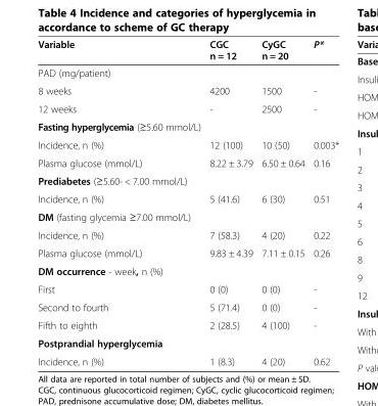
<table><thead><tr><td>Variable</td><td>CGC n = 12</td><td>CyGC n = 20</td><td>P*</td></tr></thead><tbody><tr><td colspan="4">PAD (mg/patient)</td></tr><tr><td>8 weeks</td><td>4200</td><td>1500</td><td>-</td></tr><tr><td>12 weeks</td><td>-</td><td>2500</td><td>-</td></tr><tr><td colspan="4">Fasting hyperglycemia (≥5.60 mmol/L)</td></tr><tr><td>Incidence, n (%)</td><td>12 (100)</td><td>10 (50)</td><td>0.003*</td></tr><tr><td>Plasma glucose (mmol/L)</td><td>8.22 ± 3.79</td><td>6.50 ± 0.64</td><td>0.16</td></tr><tr><td colspan="4">Prediabetes (≥5.60- &lt; 7.00 mmol/L)</td></tr><tr><td>Incidence, n (%)</td><td>5 (41.6)</td><td>6 (30)</td><td>0.51</td></tr><tr><td colspan="4">DM (fasting glycemia ≥7.00 mmol/L)</td></tr><tr><td>Incidence, n (%)</td><td>7 (58.3)</td><td>4 (20)</td><td>0.22</td></tr><tr><td>Plasma glucose (mmol/L)</td><td>9.83 ± 4.39</td><td>7.11 ± 0.15</td><td>0.26</td></tr><tr><td colspan="4">DM occurrence - week, n (%)</td></tr><tr><td>First</td><td>0 (0)</td><td>0 (0)</td><td>-</td></tr><tr><td>Second to fourth</td><td>5 (71.4)</td><td>0 (0)</td><td>-</td></tr><tr><td>Fifth to eighth</td><td>2 (28.5)</td><td>4 (100)</td><td>-</td></tr><tr><td colspan="4">Postprandial hyperglycemia</td></tr><tr><td>Incidence, n (%)</td><td>1 (8.3)</td><td>4 (20)</td><td>0.62</td></tr></tbody></table>